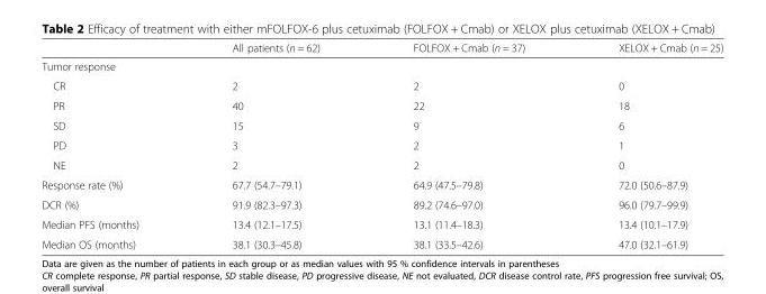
<table><thead><tr><td></td><td>All patients (n = 62)</td><td>FOLFOX + Cmab (n = 37)</td><td>XELOX + Cmab (n = 25)</td></tr></thead><tbody><tr><td colspan="4">Tumor response</td></tr><tr><td>CR</td><td>2</td><td>2</td><td>0</td></tr><tr><td>PR</td><td>40</td><td>22</td><td>18</td></tr><tr><td>SD</td><td>15</td><td>9</td><td>6</td></tr><tr><td>PD</td><td>3</td><td>2</td><td>1</td></tr><tr><td>NE</td><td>2</td><td>2</td><td>0</td></tr><tr><td>Response rate (%)</td><td>67.7 (54.7–79.1)</td><td>64.9 (47.5–79.8)</td><td>72.0 (50.6–87.9)</td></tr><tr><td>DCR (%)</td><td>91.9 (82.3–97.3)</td><td>89.2 (74.6–97.0)</td><td>96.0 (79.7–99.9)</td></tr><tr><td>Median PFS (months)</td><td>13.4 (12.1–17.5)</td><td>13.1 (11.4–18.3)</td><td>13.4 (10.1–17.9)</td></tr><tr><td>Median OS (months)</td><td>38.1 (30.3–45.8)</td><td>38.1 (33.5–42.6)</td><td>47.0 (32.1–61.9)</td></tr></tbody></table>